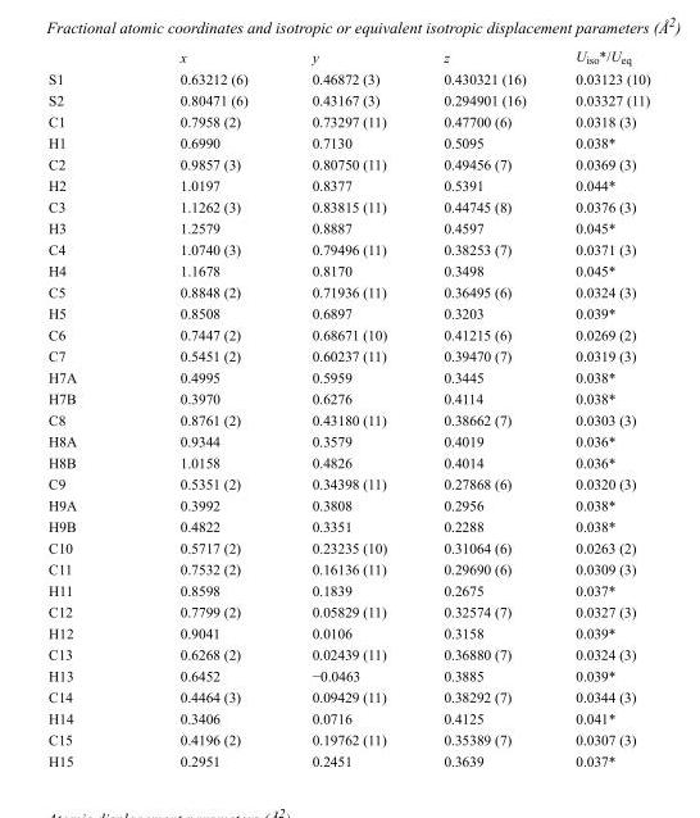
<table><thead><tr><td></td><td>x</td><td>y</td><td>z</td><td>U<sub>iso</sub>*/U<sub>eq</sub></td></tr></thead><tbody><tr><td>S1</td><td>0.63212 (6)</td><td>0.46872 (3)</td><td>0.430321 (16)</td><td>0.03123 (10)</td></tr><tr><td>S2</td><td>0.80471 (6)</td><td>0.43167 (3)</td><td>0.294901 (16)</td><td>0.03327 (11)</td></tr><tr><td>C1</td><td>0.7958 (2)</td><td>0.73297 (11)</td><td>0.47700 (6)</td><td>0.0318 (3)</td></tr><tr><td>H1</td><td>0.6990</td><td>0.7130</td><td>0.5095</td><td>0.038*</td></tr><tr><td>C2</td><td>0.9857 (3)</td><td>0.80750 (11)</td><td>0.49456 (7)</td><td>0.0369 (3)</td></tr><tr><td>H2</td><td>1.0197</td><td>0.8377</td><td>0.5391</td><td>0.044*</td></tr><tr><td>C3</td><td>1.1262 (3)</td><td>0.83815 (11)</td><td>0.44745 (8)</td><td>0.0376 (3)</td></tr><tr><td>H3</td><td>1.2579</td><td>0.8887</td><td>0.4597</td><td>0.045*</td></tr><tr><td>C4</td><td>1.0740 (3)</td><td>0.79496 (11)</td><td>0.38253 (7)</td><td>0.0371 (3)</td></tr><tr><td>H4</td><td>1.1678</td><td>0.8170</td><td>0.3498</td><td>0.045*</td></tr><tr><td>C5</td><td>0.8848 (2)</td><td>0.71936 (11)</td><td>0.36495 (6)</td><td>0.0324 (3)</td></tr><tr><td>H5</td><td>0.8508</td><td>0.6897</td><td>0.3203</td><td>0.039*</td></tr><tr><td>C6</td><td>0.7447 (2)</td><td>0.68671 (10)</td><td>0.41215 (6)</td><td>0.0269 (2)</td></tr><tr><td>C7</td><td>0.5451 (2)</td><td>0.60237 (11)</td><td>0.39470 (7)</td><td>0.0319 (3)</td></tr><tr><td>H7A</td><td>0.4995</td><td>0.5959</td><td>0.3445</td><td>0.038*</td></tr><tr><td>H7B</td><td>0.3970</td><td>0.6276</td><td>0.4114</td><td>0.038*</td></tr><tr><td>C8</td><td>0.8761 (2)</td><td>0.43180 (11)</td><td>0.38662 (7)</td><td>0.0303 (3)</td></tr><tr><td>H8A</td><td>0.9344</td><td>0.3579</td><td>0.4019</td><td>0.036*</td></tr><tr><td>H8B</td><td>1.0158</td><td>0.4826</td><td>0.4014</td><td>0.036*</td></tr><tr><td>C9</td><td>0.5351 (2)</td><td>0.34398 (11)</td><td>0.27868 (6)</td><td>0.0320 (3)</td></tr><tr><td>H9A</td><td>0.3992</td><td>0.3808</td><td>0.2956</td><td>0.038*</td></tr><tr><td>H9B</td><td>0.4822</td><td>0.3351</td><td>0.2288</td><td>0.038*</td></tr><tr><td>C10</td><td>0.5717 (2)</td><td>0.23235 (10)</td><td>0.31064 (6)</td><td>0.0263 (2)</td></tr><tr><td>C11</td><td>0.7532 (2)</td><td>0.16136 (11)</td><td>0.29690 (6)</td><td>0.0309 (3)</td></tr><tr><td>H11</td><td>0.8598</td><td>0.1839</td><td>0.2675</td><td>0.037*</td></tr><tr><td>C12</td><td>0.7799 (2)</td><td>0.05829 (11)</td><td>0.32574 (7)</td><td>0.0327 (3)</td></tr><tr><td>H12</td><td>0.9041</td><td>0.0106</td><td>0.3158</td><td>0.039*</td></tr><tr><td>C13</td><td>0.6268 (2)</td><td>0.02439 (11)</td><td>0.36880 (7)</td><td>0.0324 (3)</td></tr><tr><td>H13</td><td>0.6452</td><td>−0.0463</td><td>0.3885</td><td>0.039*</td></tr><tr><td>C14</td><td>0.4464 (3)</td><td>0.09429 (11)</td><td>0.38292 (7)</td><td>0.0344 (3)</td></tr><tr><td>H14</td><td>0.3406</td><td>0.0716</td><td>0.4125</td><td>0.041*</td></tr><tr><td>C15</td><td>0.4196 (2)</td><td>0.19762 (11)</td><td>0.35389 (7)</td><td>0.0307 (3)</td></tr><tr><td>H15</td><td>0.2951</td><td>0.2451</td><td>0.3639</td><td>0.037*</td></tr></tbody></table>